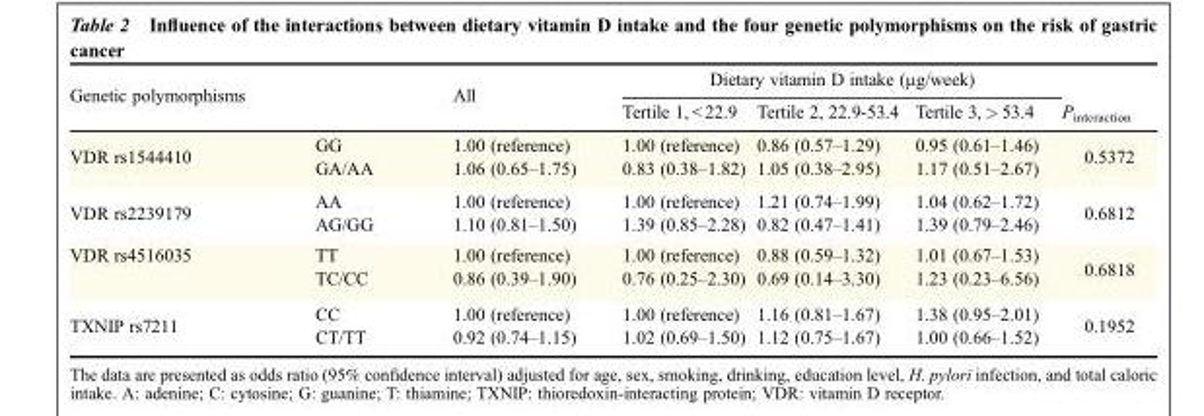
<table><thead><tr><td rowspan="2" colspan="2">Genetic polymorphisms</td><td rowspan="3">All 1.00 (reference) 1.06 (0.65–1.75)</td><td colspan="3">Dietary vitamin D intake (µg/week)</td><td rowspan="3">P<sub>interaction</sub> 0.5372</td></tr><tr><td rowspan="2">Tertile 1, &lt; 22.9 1.00 (reference) 0.83 (0.38–1.82)</td><td rowspan="2">Tertile 2, 22.9-53.4 0.86 (0.57–1.29) 1.05 (0.38–2.95)</td><td rowspan="2">Tertile 3, &gt; 53.4 0.95 (0.61–1.46) 1.17 (0.51–2.67)</td></tr><tr><td>VDR rs1544410</td><td>GG GA/AA</td></tr></thead><tbody><tr><td>VDR rs2239179</td><td>AA AG/GG</td><td>1.00 (reference) 1.10 (0.81–1.50)</td><td>1.00 (reference) 1.39 (0.85–2.28)</td><td>1.21 (0.74–1.99) 0.82 (0.47–1.41)</td><td>1.04 (0.62–1.72) 1.39 (0.79–2.46)</td><td>0.6812</td></tr><tr><td>VDR rs4516035</td><td>TT TC/CC</td><td>1.00 (reference) 0.86 (0.39–1.90)</td><td>1.00 (reference) 0.76 (0.25–2.30)</td><td>0.88 (0.59–1.32) 0.69 (0.14–3.30)</td><td>1.01 (0.67–1.53) 1.23 (0.23–6.56)</td><td>0.6818</td></tr><tr><td>TXNIP rs7211</td><td>CC CT/TT</td><td>1.00 (reference) 0.92 (0.74–1.15)</td><td>1.00 (reference) 1.02 (0.69–1.50)</td><td>1.16 (0.81–1.67) 1.12 (0.75–1.67)</td><td>1.38 (0.95–2.01) 1.00 (0.66–1.52)</td><td>0.1952</td></tr></tbody></table>